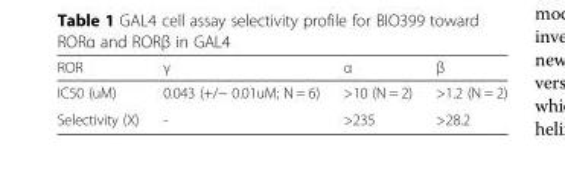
<table><thead><tr><td>ROR</td><td>γ</td><td>α</td><td>β</td></tr></thead><tbody><tr><td>IC50 (uM)</td><td>0.043 (+/− 0.01uM; N = 6)</td><td>&gt;10 (N = 2)</td><td>&gt;1.2 (N = 2)</td></tr><tr><td>Selectivity (X)</td><td>-</td><td>&gt;235</td><td>&gt;28.2</td></tr></tbody></table>